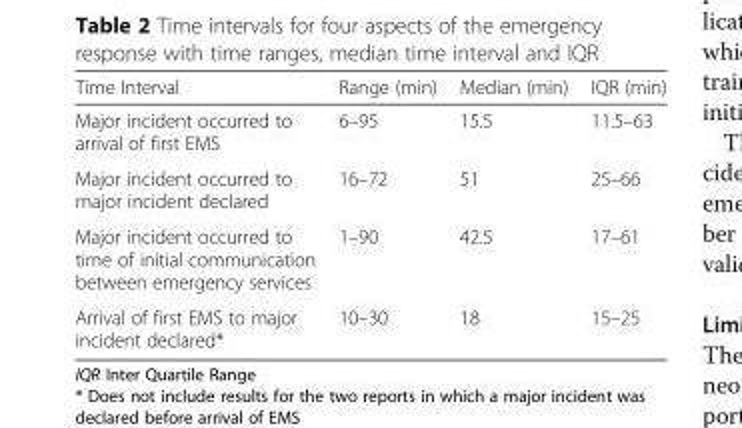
<table><thead><tr><td>Time Interval</td><td>Range (min)</td><td>Median (min)</td><td>IQR (min)</td></tr></thead><tbody><tr><td>Major incident occurred to arrival of first EMS</td><td>6–95</td><td>15.5</td><td>11.5–63</td></tr><tr><td>Major incident occurred to major incident declared</td><td>16–72</td><td>51</td><td>25–66</td></tr><tr><td>Major incident occurred to time of initial communication between emergency services</td><td>1–90</td><td>42.5</td><td>17–61</td></tr><tr><td>Arrival of first EMS to major incident declared*</td><td>10–30</td><td>18</td><td>15–25</td></tr></tbody></table>